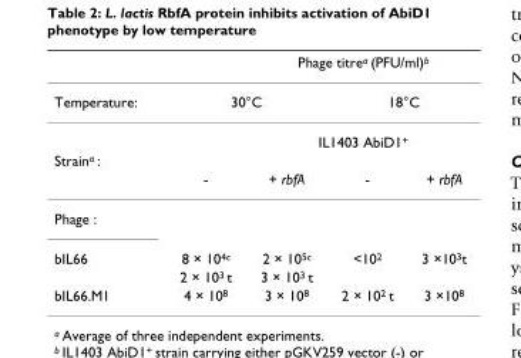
<table><thead><tr><td rowspan="4">Temperature: Straina :</td><td></td><td colspan="3">Phage titrea (PFU/ml)b</td></tr><tr><td colspan="2">30°C</td><td colspan="2">18°C</td></tr><tr><td rowspan="2"></td><td colspan="3">IL1403 AbiD1<sup>+</sup></td></tr><tr><td></td><td></td><td></td></tr></thead><tbody><tr><td></td><td>-</td><td>+ rbfA</td><td>-</td><td>+ rbfA</td></tr><tr><td colspan="5">Phage :</td></tr><tr><td rowspan="2">bIL66</td><td>8 × 10<sup>4c</sup></td><td>2 × 10<sup>5c</sup></td><td>&lt;10<sup>2</sup></td><td>3 ×10<sup>3</sup>t</td></tr><tr><td>2 × 10<sup>3</sup> t</td><td>3 × 10<sup>3</sup> t</td><td></td><td></td></tr><tr><td>bIL66.M1</td><td>4 × 10<sup>8</sup></td><td>3 × 10<sup>8</sup></td><td>2 × 10<sup>2</sup> t</td><td>3 ×10<sup>8</sup></td></tr></tbody></table>